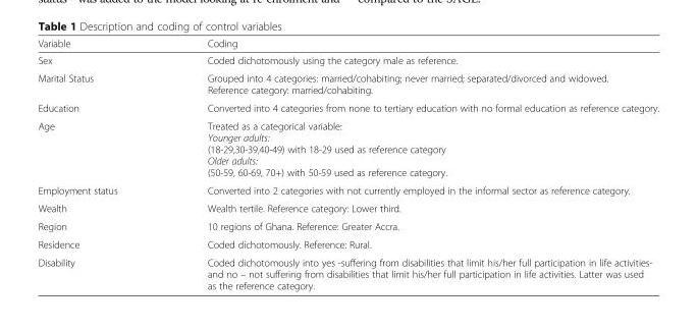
<table><thead><tr><td>Variable</td><td>Coding</td></tr></thead><tbody><tr><td>Sex</td><td>Coded dichotomously using the category male as reference.</td></tr><tr><td>Marital Status</td><td>Grouped into 4 categories: married/cohabiting; never married; separated/divorced and widowed. Reference category: married/cohabiting.</td></tr><tr><td>Education</td><td>Converted into 4 categories from none to tertiary education with no formal education as reference category.</td></tr><tr><td>Age</td><td>Treated as a categorical variable: Younger adults: (18-29,30-39,40-49) with 18-29 used as reference category Older adults: (50-59, 60-69, 70+) with 50-59 used as reference category.</td></tr><tr><td>Employment status</td><td>Converted into 2 categories with not currently employed in the informal sector as reference category.</td></tr><tr><td>Wealth</td><td>Wealth tertile. Reference category: Lower third.</td></tr><tr><td>Region</td><td>10 regions of Ghana. Reference: Greater Accra.</td></tr><tr><td>Residence</td><td>Coded dichotomously. Reference: Rural.</td></tr><tr><td>Disability</td><td>Coded dichotomously into yes -suffering from disabilities that limit his/her full participation in life activities- and no – not suffering from disabilities that limit his/her full participation in life activities. Latter was used as the reference category.</td></tr></tbody></table>